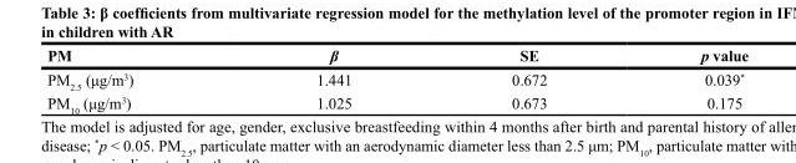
<table><thead><tr><td>PM</td><td>β</td><td>SE</td><td>p value</td></tr></thead><tbody><tr><td>PM<sub>2.5</sub> (μg/m<sup>3</sup>)</td><td>1.441</td><td>0.672</td><td>0.039*</td></tr><tr><td>PM<sub>10</sub> (μg/m<sup>3</sup>)</td><td>1.025</td><td>0.673</td><td>0.175</td></tr></tbody></table>